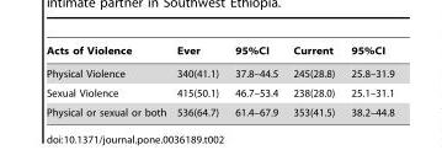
<table><thead><tr><td>Acts of Violence</td><td>Ever</td><td>95%CI</td><td>Current</td><td>95%CI</td></tr></thead><tbody><tr><td>Physical Violence</td><td>340(41.1)</td><td>37.8–44.5</td><td>245(28.8)</td><td>25.8–31.9</td></tr><tr><td>Sexual Violence</td><td>415(50.1)</td><td>46.7–53.4</td><td>238(28.0)</td><td>25.1–31.1</td></tr><tr><td>Physical or sexual or both</td><td>536(64.7)</td><td>61.4–67.9</td><td>353(41.5)</td><td>38.2–44.8</td></tr></tbody></table>